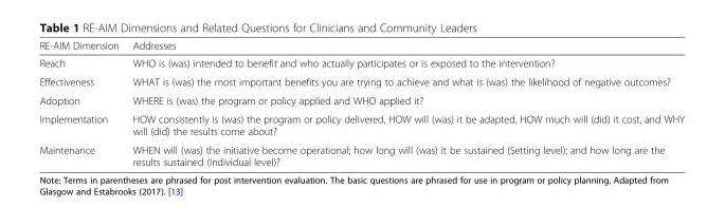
<table><thead><tr><td>RE-AIM Dimension</td><td>Addresses</td></tr></thead><tbody><tr><td>Reach</td><td>WHO is (was) intended to benefit and who actually participates or is exposed to the intervention?</td></tr><tr><td>Effectiveness</td><td>WHAT is (was) the most important benefits you are trying to achieve and what is (was) the likelihood of negative outcomes?</td></tr><tr><td>Adoption</td><td>WHERE is (was) the program or policy applied and WHO applied it?</td></tr><tr><td>Implementation</td><td>HOW consistently is (was) the program or policy delivered, HOW will (was) it be adapted, HOW much will (did) it cost, and WHY will (did) the results come about?</td></tr><tr><td>Maintenance</td><td>WHEN will (was) the initiative become operational; how long will (was) it be sustained (Setting level); and how long are the results sustained (Individual level)?</td></tr></tbody></table>